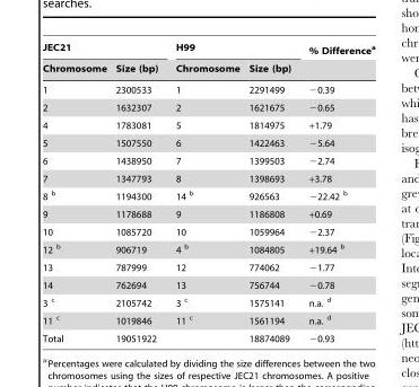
<table><thead><tr><td colspan="2">JEC21</td><td colspan="2">H99</td><td rowspan="2">% Difference<sup>a</sup></td></tr><tr><td>Chromosome</td><td>Size (bp)</td><td>Chromosome</td><td>Size (bp)</td></tr></thead><tbody><tr><td>1</td><td>2300533</td><td>1</td><td>2291499</td><td>−0.39</td></tr><tr><td>2</td><td>1632307</td><td>2</td><td>1621675</td><td>−0.65</td></tr><tr><td>4</td><td>1783081</td><td>5</td><td>1814975</td><td>+1.79</td></tr><tr><td>5</td><td>1507550</td><td>6</td><td>1422463</td><td>−5.64</td></tr><tr><td>6</td><td>1438950</td><td>7</td><td>1399503</td><td>−2.74</td></tr><tr><td>7</td><td>1347793</td><td>8</td><td>1398693</td><td>+3.78</td></tr><tr><td>8 b</td><td>1194300</td><td>14 b</td><td>926563</td><td>−22.42 b</td></tr><tr><td>9</td><td>1178688</td><td>9</td><td>1186808</td><td>+0.69</td></tr><tr><td>10</td><td>1085720</td><td>10</td><td>1059964</td><td>−2.37</td></tr><tr><td>12 b</td><td>906719</td><td>4 b</td><td>1084805</td><td>+19.64 b</td></tr><tr><td>13</td><td>787999</td><td>12</td><td>774062</td><td>−1.77</td></tr><tr><td>14</td><td>762694</td><td>13</td><td>756744</td><td>−0.78</td></tr><tr><td>3 c</td><td>2105742</td><td>3 c</td><td>1575141</td><td>n.a. d</td></tr><tr><td>11 c</td><td>1019846</td><td>11 c</td><td>1561194</td><td>n.a. d</td></tr><tr><td>Total</td><td>19051922</td><td></td><td>18874089</td><td>−0.93</td></tr></tbody></table>